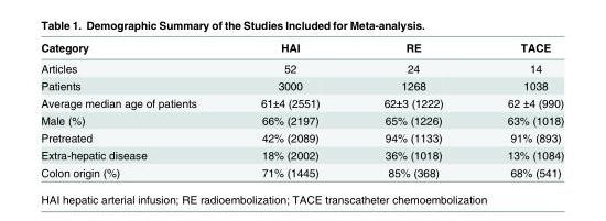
<table><thead><tr><td>Category</td><td>HAI</td><td>RE</td><td>TACE</td></tr></thead><tbody><tr><td>Articles</td><td>52</td><td>24</td><td>14</td></tr><tr><td>Patients</td><td>3000</td><td>1268</td><td>1038</td></tr><tr><td>Average median age of patients</td><td>61±4 (2551)</td><td>62±3 (1222)</td><td>62 ±4 (990)</td></tr><tr><td>Male (%)</td><td>66% (2197)</td><td>65% (1226)</td><td>63% (1018)</td></tr><tr><td>Pretreated</td><td>42% (2089)</td><td>94% (1133)</td><td>91% (893)</td></tr><tr><td>Extra-hepatic disease</td><td>18% (2002)</td><td>36% (1018)</td><td>13% (1084)</td></tr><tr><td>Colon origin (%)</td><td>71% (1445)</td><td>85% (368)</td><td>68% (541)</td></tr></tbody></table>